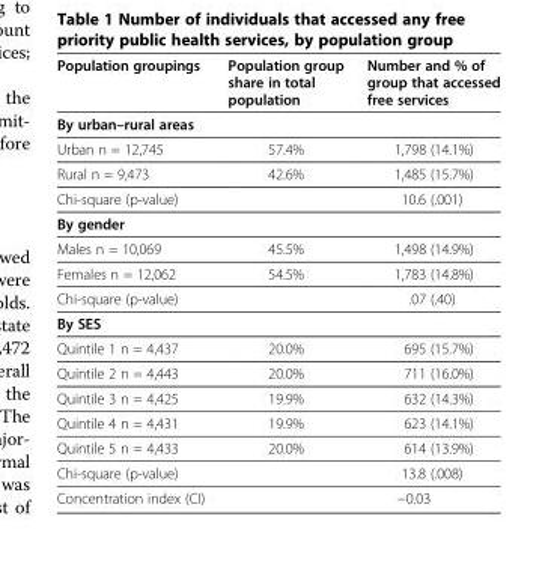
<table><thead><tr><td>Population groupings</td><td>Population group share in total population</td><td>Number and % of group that accessed free services</td></tr></thead><tbody><tr><td colspan="3">By urban–rural areas</td></tr><tr><td>Urban n = 12,745</td><td>57.4%</td><td>1,798 (14.1%)</td></tr><tr><td>Rural n = 9,473</td><td>42.6%</td><td>1,485 (15.7%)</td></tr><tr><td>Chi-square (p-value)</td><td></td><td>10.6 (.001)</td></tr><tr><td colspan="3">By gender</td></tr><tr><td>Males n = 10,069</td><td>45.5%</td><td>1,498 (14.9%)</td></tr><tr><td>Females n = 12,062</td><td>54.5%</td><td>1,783 (14.8%)</td></tr><tr><td>Chi-square (p-value)</td><td></td><td>.07 (.40)</td></tr><tr><td colspan="3">By SES</td></tr><tr><td>Quintile 1 n = 4,437</td><td>20.0%</td><td>695 (15.7%)</td></tr><tr><td>Quintile 2 n = 4,443</td><td>20.0%</td><td>711 (16.0%)</td></tr><tr><td>Quintile 3 n = 4,425</td><td>19.9%</td><td>632 (14.3%)</td></tr><tr><td>Quintile 4 n = 4,431</td><td>19.9%</td><td>623 (14.1%)</td></tr><tr><td>Quintile 5 n = 4,433</td><td>20.0%</td><td>614 (13.9%)</td></tr><tr><td>Chi-square (p-value)</td><td></td><td>13.8 (.008)</td></tr><tr><td>Concentration index (CI)</td><td></td><td>−0.03</td></tr></tbody></table>